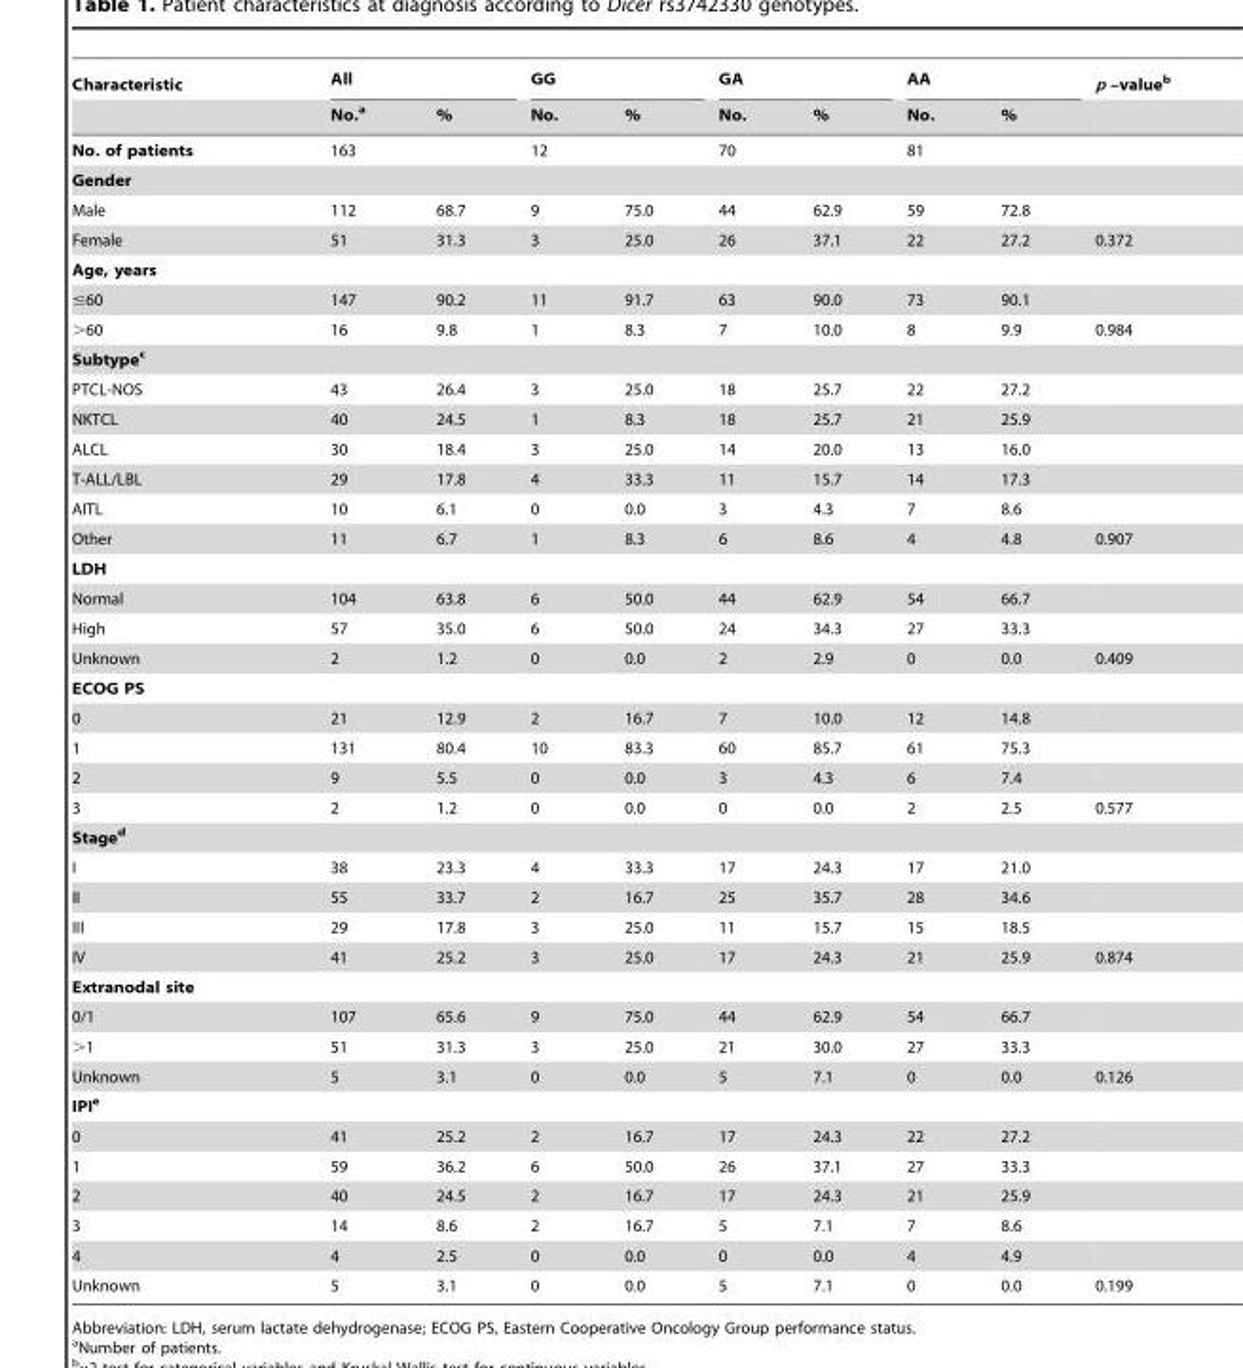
<table><thead><tr><td rowspan="2">Characteristic</td><td colspan="2">All</td><td colspan="2">GG</td><td colspan="2">GA</td><td colspan="2">AA</td><td rowspan="2">p –value<sup>b</sup></td></tr><tr><td>No.<sup>a</sup></td><td>%</td><td>No.</td><td>%</td><td>No.</td><td>%</td><td>No.</td><td>%</td></tr></thead><tbody><tr><td>No. of patients</td><td colspan="2">163</td><td colspan="2">12</td><td colspan="2">70</td><td colspan="2">81</td><td></td></tr><tr><td colspan="10">Gender</td></tr><tr><td>Male</td><td>112</td><td>68.7</td><td>9</td><td>75.0</td><td>44</td><td>62.9</td><td>59</td><td>72.8</td><td></td></tr><tr><td>Female</td><td>51</td><td>31.3</td><td>3</td><td>25.0</td><td>26</td><td>37.1</td><td>22</td><td>27.2</td><td>0.372</td></tr><tr><td colspan="10">Age, years</td></tr><tr><td>≤60</td><td>147</td><td>90.2</td><td>11</td><td>91.7</td><td>63</td><td>90.0</td><td>73</td><td>90.1</td><td></td></tr><tr><td>&gt;60</td><td>16</td><td>9.8</td><td>1</td><td>8.3</td><td>7</td><td>10.0</td><td>8</td><td>9.9</td><td>0.984</td></tr><tr><td colspan="10">Subtypec</td></tr><tr><td>PTCL-NOS</td><td>43</td><td>26.4</td><td>3</td><td>25.0</td><td>18</td><td>25.7</td><td>22</td><td>27.2</td><td></td></tr><tr><td>NKTCL</td><td>40</td><td>24.5</td><td>1</td><td>8.3</td><td>18</td><td>25.7</td><td>21</td><td>25.9</td><td></td></tr><tr><td>ALCL</td><td>30</td><td>18.4</td><td>3</td><td>25.0</td><td>14</td><td>20.0</td><td>13</td><td>16.0</td><td></td></tr><tr><td>T-ALL/LBL</td><td>29</td><td>17.8</td><td>4</td><td>33.3</td><td>11</td><td>15.7</td><td>14</td><td>17.3</td><td></td></tr><tr><td>AITL</td><td>10</td><td>6.1</td><td>0</td><td>0.0</td><td>3</td><td>4.3</td><td>7</td><td>8.6</td><td></td></tr><tr><td>Other</td><td>11</td><td>6.7</td><td>1</td><td>8.3</td><td>6</td><td>8.6</td><td>4</td><td>4.8</td><td>0.907</td></tr><tr><td colspan="10">LDH</td></tr><tr><td>Normal</td><td>104</td><td>63.8</td><td>6</td><td>50.0</td><td>44</td><td>62.9</td><td>54</td><td>66.7</td><td></td></tr><tr><td>High</td><td>57</td><td>35.0</td><td>6</td><td>50.0</td><td>24</td><td>34.3</td><td>27</td><td>33.3</td><td></td></tr><tr><td>Unknown</td><td>2</td><td>1.2</td><td>0</td><td>0.0</td><td>2</td><td>2.9</td><td>0</td><td>0.0</td><td>0.409</td></tr><tr><td colspan="10">ECOG PS</td></tr><tr><td>0</td><td>21</td><td>12.9</td><td>2</td><td>16.7</td><td>7</td><td>10.0</td><td>12</td><td>14.8</td><td></td></tr><tr><td>1</td><td>131</td><td>80.4</td><td>10</td><td>83.3</td><td>60</td><td>85.7</td><td>61</td><td>75.3</td><td></td></tr><tr><td>2</td><td>9</td><td>5.5</td><td>0</td><td>0.0</td><td>3</td><td>4.3</td><td>6</td><td>7.4</td><td></td></tr><tr><td>3</td><td>2</td><td>1.2</td><td>0</td><td>0.0</td><td>0</td><td>0.0</td><td>2</td><td>2.5</td><td>0.577</td></tr><tr><td colspan="10">Staged</td></tr><tr><td>I</td><td>38</td><td>23.3</td><td>4</td><td>33.3</td><td>17</td><td>24.3</td><td>17</td><td>21.0</td><td></td></tr><tr><td>II</td><td>55</td><td>33.7</td><td>2</td><td>16.7</td><td>25</td><td>35.7</td><td>28</td><td>34.6</td><td></td></tr><tr><td>III</td><td>29</td><td>17.8</td><td>3</td><td>25.0</td><td>11</td><td>15.7</td><td>15</td><td>18.5</td><td></td></tr><tr><td>IV</td><td>41</td><td>25.2</td><td>3</td><td>25.0</td><td>17</td><td>24.3</td><td>21</td><td>25.9</td><td>0.874</td></tr><tr><td colspan="10">Extranodal site</td></tr><tr><td>0/1</td><td>107</td><td>65.6</td><td>9</td><td>75.0</td><td>44</td><td>62.9</td><td>54</td><td>66.7</td><td></td></tr><tr><td>&gt;1</td><td>51</td><td>31.3</td><td>3</td><td>25.0</td><td>21</td><td>30.0</td><td>27</td><td>33.3</td><td></td></tr><tr><td>Unknown</td><td>5</td><td>3.1</td><td>0</td><td>0.0</td><td>5</td><td>7.1</td><td>0</td><td>0.0</td><td>0.126</td></tr><tr><td colspan="10">IPIe</td></tr><tr><td>0</td><td>41</td><td>25.2</td><td>2</td><td>16.7</td><td>17</td><td>24.3</td><td>22</td><td>27.2</td><td></td></tr><tr><td>1</td><td>59</td><td>36.2</td><td>6</td><td>50.0</td><td>26</td><td>37.1</td><td>27</td><td>33.3</td><td></td></tr><tr><td>2</td><td>40</td><td>24.5</td><td>2</td><td>16.7</td><td>17</td><td>24.3</td><td>21</td><td>25.9</td><td></td></tr><tr><td>3</td><td>14</td><td>8.6</td><td>2</td><td>16.7</td><td>5</td><td>7.1</td><td>7</td><td>8.6</td><td></td></tr><tr><td>4</td><td>4</td><td>2.5</td><td>0</td><td>0.0</td><td>0</td><td>0.0</td><td>4</td><td>4.9</td><td></td></tr><tr><td>Unknown</td><td>5</td><td>3.1</td><td>0</td><td>0.0</td><td>5</td><td>7.1</td><td>0</td><td>0.0</td><td>0.199</td></tr></tbody></table>